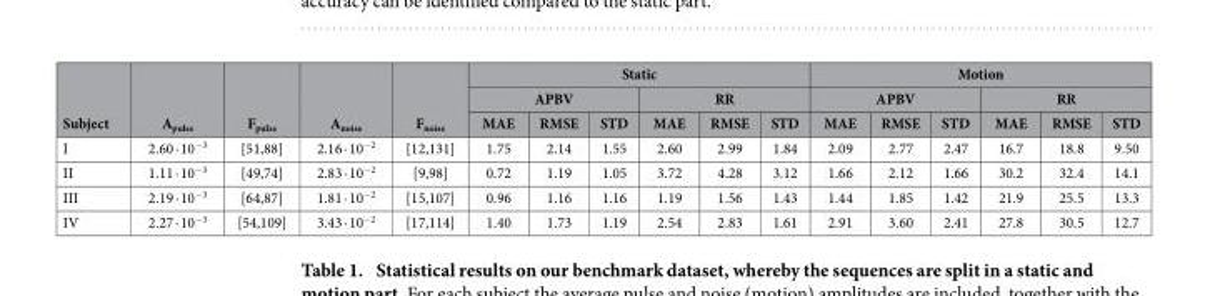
<table><thead><tr><td rowspan="3">Subject</td><td rowspan="3">A<sub>pulse</sub></td><td rowspan="3">F<sub>pulse</sub></td><td rowspan="3">A<sub>noise</sub></td><td rowspan="3">F<sub>noise</sub></td><td colspan="6">Static</td><td colspan="6">Motion</td></tr><tr><td colspan="3">APBV</td><td colspan="3">RR</td><td colspan="3">APBV</td><td colspan="3">RR</td></tr><tr><td>MAE</td><td>RMSE</td><td>STD</td><td>MAE</td><td>RMSE</td><td>STD</td><td>MAE</td><td>RMSE</td><td>STD</td><td>MAE</td><td>RMSE</td><td>STD</td></tr></thead><tbody><tr><td>I</td><td>2.60 · 10<sup>−3</sup></td><td>[51,88]</td><td>2.16 · 10<sup>−2</sup></td><td>[12,131]</td><td>1.75</td><td>2.14</td><td>1.55</td><td>2.60</td><td>2.99</td><td>1.84</td><td>2.09</td><td>2.77</td><td>2.47</td><td>16.7</td><td>18.8</td><td>9.50</td></tr><tr><td>II</td><td>1.11 · 10<sup>−3</sup></td><td>[49,74]</td><td>2.83 · 10<sup>−2</sup></td><td>[9,98]</td><td>0.72</td><td>1.19</td><td>1.05</td><td>3.72</td><td>4.28</td><td>3.12</td><td>1.66</td><td>2.12</td><td>1.66</td><td>30.2</td><td>32.4</td><td>14.1</td></tr><tr><td>III</td><td>2.19 · 10<sup>−3</sup></td><td>[64,87]</td><td>1.81 · 10<sup>−2</sup></td><td>[15,107]</td><td>0.96</td><td>1.16</td><td>1.16</td><td>1.19</td><td>1.56</td><td>1.43</td><td>1.44</td><td>1.85</td><td>1.42</td><td>21.9</td><td>25.5</td><td>13.3</td></tr><tr><td>IV</td><td>2.27 · 10<sup>−3</sup></td><td>[54,109]</td><td>3.43 · 10<sup>−2</sup></td><td>[17,114]</td><td>1.40</td><td>1.73</td><td>1.19</td><td>2.54</td><td>2.83</td><td>1.61</td><td>2.91</td><td>3.60</td><td>2.41</td><td>27.8</td><td>30.5</td><td>12.7</td></tr></tbody></table>